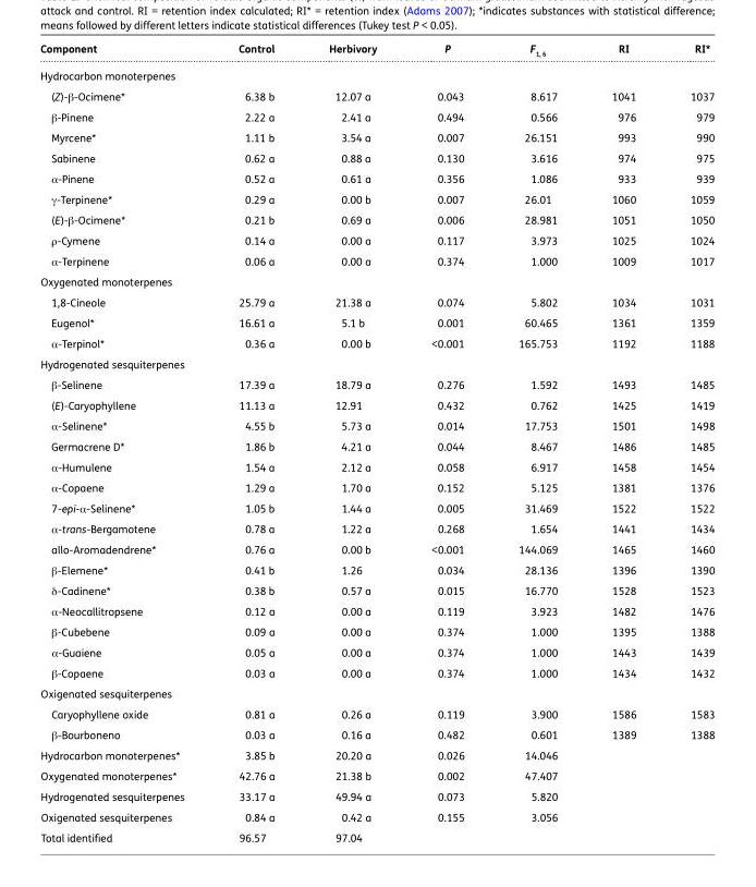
<table><thead><tr><td>Component</td><td>Control</td><td>Herbivory</td><td>P</td><td>F<sub>1, 6</sub></td><td>RI</td><td>RI*</td></tr></thead><tbody><tr><td colspan="7">Hydrocarbon monoterpenes</td></tr><tr><td>(Z)-β-Ocimene*</td><td>6.38 b</td><td>12.07 a</td><td>0.043</td><td>8.617</td><td>1041</td><td>1037</td></tr><tr><td>β-Pinene</td><td>2.22 a</td><td>2.41 a</td><td>0.494</td><td>0.566</td><td>976</td><td>979</td></tr><tr><td>Myrcene*</td><td>1.11 b</td><td>3.54 a</td><td>0.007</td><td>26.151</td><td>993</td><td>990</td></tr><tr><td>Sabinene</td><td>0.62 a</td><td>0.88 a</td><td>0.130</td><td>3.616</td><td>974</td><td>975</td></tr><tr><td>α-Pinene</td><td>0.52 a</td><td>0.61 a</td><td>0.356</td><td>1.086</td><td>933</td><td>939</td></tr><tr><td>γ-Terpinene*</td><td>0.29 a</td><td>0.00 b</td><td>0.007</td><td>26.01</td><td>1060</td><td>1059</td></tr><tr><td>(E)-β-Ocimene*</td><td>0.21 b</td><td>0.69 a</td><td>0.006</td><td>28.981</td><td>1051</td><td>1050</td></tr><tr><td>ρ-Cymene</td><td>0.14 a</td><td>0.00 a</td><td>0.117</td><td>3.973</td><td>1025</td><td>1024</td></tr><tr><td>α-Terpinene</td><td>0.06 a</td><td>0.00 a</td><td>0.374</td><td>1.000</td><td>1009</td><td>1017</td></tr><tr><td colspan="7">Oxygenated monoterpenes</td></tr><tr><td>1,8-Cineole</td><td>25.79 a</td><td>21.38 a</td><td>0.074</td><td>5.802</td><td>1034</td><td>1031</td></tr><tr><td>Eugenol*</td><td>16.61 a</td><td>5.1 b</td><td>0.001</td><td>60.465</td><td>1361</td><td>1359</td></tr><tr><td>α-Terpinol*</td><td>0.36 a</td><td>0.00 b</td><td>&lt;0.001</td><td>165.753</td><td>1192</td><td>1188</td></tr><tr><td colspan="7">Hydrogenated sesquiterpenes</td></tr><tr><td>β-Selinene</td><td>17.39 a</td><td>18.79 a</td><td>0.276</td><td>1.592</td><td>1493</td><td>1485</td></tr><tr><td>(E)-Caryophyllene</td><td>11.13 a</td><td>12.91</td><td>0.432</td><td>0.762</td><td>1425</td><td>1419</td></tr><tr><td>α-Selinene*</td><td>4.55 b</td><td>5.73 a</td><td>0.014</td><td>17.753</td><td>1501</td><td>1498</td></tr><tr><td>Germacrene D*</td><td>1.86 b</td><td>4.21 a</td><td>0.044</td><td>8.467</td><td>1486</td><td>1485</td></tr><tr><td>α-Humulene</td><td>1.54 a</td><td>2.12 a</td><td>0.058</td><td>6.917</td><td>1458</td><td>1454</td></tr><tr><td>α-Copaene</td><td>1.29 a</td><td>1.70 a</td><td>0.152</td><td>5.125</td><td>1381</td><td>1376</td></tr><tr><td>7-epi-α-Selinene*</td><td>1.05 b</td><td>1.44 a</td><td>0.005</td><td>31.469</td><td>1522</td><td>1522</td></tr><tr><td>α-trans-Bergamotene</td><td>0.78 a</td><td>1.22 a</td><td>0.268</td><td>1.654</td><td>1441</td><td>1434</td></tr><tr><td>allo-Aromadendrene*</td><td>0.76 a</td><td>0.00 b</td><td>&lt;0.001</td><td>144.069</td><td>1465</td><td>1460</td></tr><tr><td>β-Elemene*</td><td>0.41 b</td><td>1.26</td><td>0.034</td><td>28.136</td><td>1396</td><td>1390</td></tr><tr><td>δ-Cadinene*</td><td>0.38 b</td><td>0.57 a</td><td>0.015</td><td>16.770</td><td>1528</td><td>1523</td></tr><tr><td>α-Neocallitropsene</td><td>0.12 a</td><td>0.00 a</td><td>0.119</td><td>3.923</td><td>1482</td><td>1476</td></tr><tr><td>β-Cubebene</td><td>0.09 a</td><td>0.00 a</td><td>0.374</td><td>1.000</td><td>1395</td><td>1388</td></tr><tr><td>α-Guaiene</td><td>0.05 a</td><td>0.00 a</td><td>0.374</td><td>1.000</td><td>1443</td><td>1439</td></tr><tr><td>β-Copaene</td><td>0.03 a</td><td>0.00 a</td><td>0.374</td><td>1.000</td><td>1434</td><td>1432</td></tr><tr><td colspan="7">Oxigenated sesquiterpenes</td></tr><tr><td>Caryophyllene oxide</td><td>0.81 a</td><td>0.26 a</td><td>0.119</td><td>3.900</td><td>1586</td><td>1583</td></tr><tr><td>β-Bourboneno</td><td>0.03 a</td><td>0.16 a</td><td>0.482</td><td>0.601</td><td>1389</td><td>1388</td></tr><tr><td>Hydrocarbon monoterpenes*</td><td>3.85 b</td><td>20.20 a</td><td>0.026</td><td>14.046</td><td></td><td></td></tr><tr><td>Oxygenated monoterpenes*</td><td>42.76 a</td><td>21.38 b</td><td>0.002</td><td>47.407</td><td></td><td></td></tr><tr><td>Hydrogenated sesquiterpenes</td><td>33.17 a</td><td>49.94 a</td><td>0.073</td><td>5.820</td><td></td><td></td></tr><tr><td>Oxigenated sesquiterpenes</td><td>0.84 a</td><td>0.42 a</td><td>0.155</td><td>3.056</td><td></td><td></td></tr><tr><td>Total identified</td><td>96.57</td><td>97.04</td><td></td><td></td><td></td><td></td></tr></tbody></table>